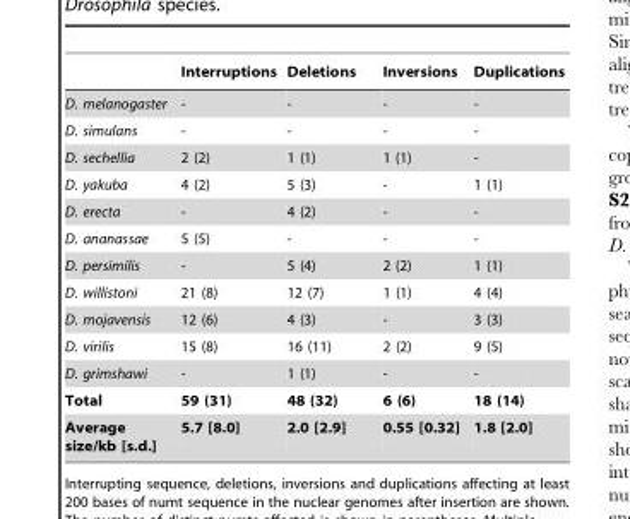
<table><thead><tr><td></td><td>Interruptions</td><td>Deletions</td><td>Inversions</td><td>Duplications</td></tr></thead><tbody><tr><td>D. melanogaster</td><td>-</td><td>-</td><td>-</td><td>-</td></tr><tr><td>D. simulans</td><td>-</td><td>-</td><td>-</td><td>-</td></tr><tr><td>D. sechellia</td><td>2 (2)</td><td>1 (1)</td><td>1 (1)</td><td>-</td></tr><tr><td>D. yakuba</td><td>4 (2)</td><td>5 (3)</td><td>-</td><td>1 (1)</td></tr><tr><td>D. erecta</td><td>-</td><td>4 (2)</td><td>-</td><td>-</td></tr><tr><td>D. ananassae</td><td>5 (5)</td><td>-</td><td>-</td><td>-</td></tr><tr><td>D. persimilis</td><td>-</td><td>5 (4)</td><td>2 (2)</td><td>1 (1)</td></tr><tr><td>D. willistoni</td><td>21 (8)</td><td>12 (7)</td><td>1 (1)</td><td>4 (4)</td></tr><tr><td>D. mojavensis</td><td>12 (6)</td><td>4 (3)</td><td>-</td><td>3 (3)</td></tr><tr><td>D. virilis</td><td>15 (8)</td><td>16 (11)</td><td>2 (2)</td><td>9 (5)</td></tr><tr><td>D. grimshawi</td><td>-</td><td>1 (1)</td><td>-</td><td>-</td></tr><tr><td>Total</td><td>59 (31)</td><td>48 (32)</td><td>6 (6)</td><td>18 (14)</td></tr><tr><td>Average size/kb [s.d.]</td><td>5.7 [8.0]</td><td>2.0 [2.9]</td><td>0.55 [0.32]</td><td>1.8 [2.0]</td></tr></tbody></table>